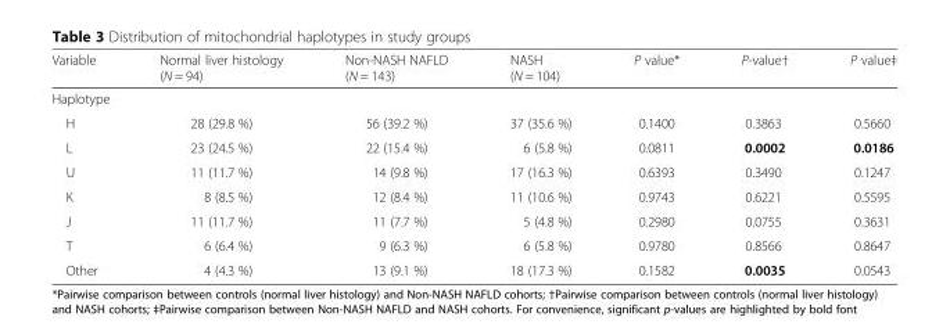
<table><thead><tr><td>Variable</td><td>Normal liver histology (N = 94)</td><td>Non-NASH NAFLD (N = 143)</td><td>NASH (N = 104)</td><td>P value*</td><td>P-value†</td><td>P value‡</td></tr></thead><tbody><tr><td colspan="7">Haplotype</td></tr><tr><td>H</td><td>28 (29.8 %)</td><td>56 (39.2 %)</td><td>37 (35.6 %)</td><td>0.1400</td><td>0.3863</td><td>0.5660</td></tr><tr><td>L</td><td>23 (24.5 %)</td><td>22 (15.4 %)</td><td>6 (5.8 %)</td><td>0.0811</td><td>0.0002</td><td>0.0186</td></tr><tr><td>U</td><td>11 (11.7 %)</td><td>14 (9.8 %)</td><td>17 (16.3 %)</td><td>0.6393</td><td>0.3490</td><td>0.1247</td></tr><tr><td>K</td><td>8 (8.5 %)</td><td>12 (8.4 %)</td><td>11 (10.6 %)</td><td>0.9743</td><td>0.6221</td><td>0.5595</td></tr><tr><td>J</td><td>11 (11.7 %)</td><td>11 (7.7 %)</td><td>5 (4.8 %)</td><td>0.2980</td><td>0.0755</td><td>0.3631</td></tr><tr><td>T</td><td>6 (6.4 %)</td><td>9 (6.3 %)</td><td>6 (5.8 %)</td><td>0.9780</td><td>0.8566</td><td>0.8647</td></tr><tr><td>Other</td><td>4 (4.3 %)</td><td>13 (9.1 %)</td><td>18 (17.3 %)</td><td>0.1582</td><td>0.0035</td><td>0.0543</td></tr></tbody></table>